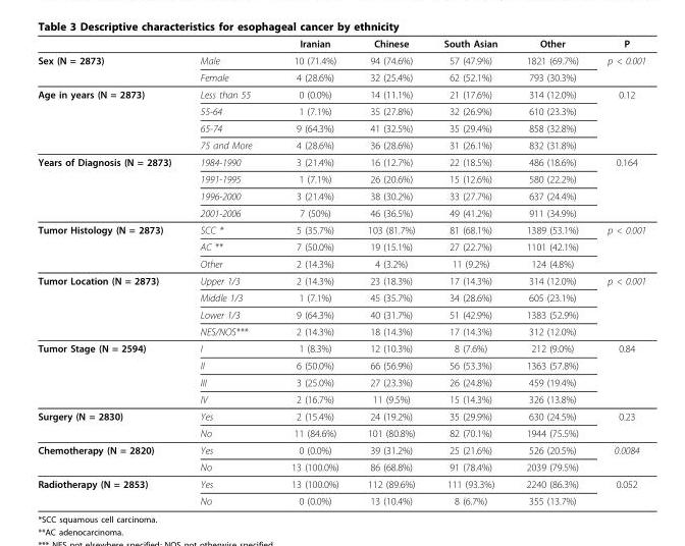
<table><thead><tr><td></td><td></td><td>Iranian</td><td>Chinese</td><td>South Asian</td><td>Other</td><td>P</td></tr></thead><tbody><tr><td rowspan="2">Sex (N = 2873)</td><td>Male</td><td>10 (71.4%)</td><td>94 (74.6%)</td><td>57 (47.9%)</td><td>1821 (69.7%)</td><td>p &lt; 0.001</td></tr><tr><td>Female</td><td>4 (28.6%)</td><td>32 (25.4%)</td><td>62 (52.1%)</td><td>793 (30.3%)</td><td></td></tr><tr><td rowspan="4">Age in years (N = 2873)</td><td>Less than 55</td><td>0 (0.0%)</td><td>14 (11.1%)</td><td>21 (17.6%)</td><td>314 (12.0%)</td><td>0.12</td></tr><tr><td>55-64</td><td>1 (7.1%)</td><td>35 (27.8%)</td><td>32 (26.9%)</td><td>610 (23.3%)</td><td></td></tr><tr><td>65-74</td><td>9 (64.3%)</td><td>41 (32.5%)</td><td>35 (29.4%)</td><td>858 (32.8%)</td><td></td></tr><tr><td>75 and More</td><td>4 (28.6%)</td><td>36 (28.6%)</td><td>31 (26.1%)</td><td>832 (31.8%)</td><td></td></tr><tr><td rowspan="4">Years of Diagnosis (N = 2873)</td><td>1984-1990</td><td>3 (21.4%)</td><td>16 (12.7%)</td><td>22 (18.5%)</td><td>486 (18.6%)</td><td>0.164</td></tr><tr><td>1991-1995</td><td>1 (7.1%)</td><td>26 (20.6%)</td><td>15 (12.6%)</td><td>580 (22.2%)</td><td></td></tr><tr><td>1996-2000</td><td>3 (21.4%)</td><td>38 (30.2%)</td><td>33 (27.7%)</td><td>637 (24.4%)</td><td></td></tr><tr><td>2001-2006</td><td>7 (50%)</td><td>46 (36.5%)</td><td>49 (41.2%)</td><td>911 (34.9%)</td><td></td></tr><tr><td rowspan="3">Tumor Histology (N = 2873)</td><td>SCC *</td><td>5 (35.7%)</td><td>103 (81.7%)</td><td>81 (68.1%)</td><td>1389 (53.1%)</td><td>p &lt; 0.001</td></tr><tr><td>AC **</td><td>7 (50.0%)</td><td>19 (15.1%)</td><td>27 (22.7%)</td><td>1101 (42.1%)</td><td></td></tr><tr><td>Other</td><td>2 (14.3%)</td><td>4 (3.2%)</td><td>11 (9.2%)</td><td>124 (4.8%)</td><td></td></tr><tr><td rowspan="4">Tumor Location (N = 2873)</td><td>Upper 1/3</td><td>2 (14.3%)</td><td>23 (18.3%)</td><td>17 (14.3%)</td><td>314 (12.0%)</td><td>p &lt; 0.001</td></tr><tr><td>Middle 1/3</td><td>1 (7.1%)</td><td>45 (35.7%)</td><td>34 (28.6%)</td><td>605 (23.1%)</td><td></td></tr><tr><td>Lower 1/3</td><td>9 (64.3%)</td><td>40 (31.7%)</td><td>51 (42.9%)</td><td>1383 (52.9%)</td><td></td></tr><tr><td>NES/NOS***</td><td>2 (14.3%)</td><td>18 (14.3%)</td><td>17 (14.3%)</td><td>312 (12.0%)</td><td></td></tr><tr><td rowspan="4">Tumor Stage (N = 2594)</td><td>I</td><td>1 (8.3%)</td><td>12 (10.3%)</td><td>8 (7.6%)</td><td>212 (9.0%)</td><td>0.84</td></tr><tr><td>II</td><td>6 (50.0%)</td><td>66 (56.9%)</td><td>56 (53.3%)</td><td>1363 (57.8%)</td><td></td></tr><tr><td>III</td><td>3 (25.0%)</td><td>27 (23.3%)</td><td>26 (24.8%)</td><td>459 (19.4%)</td><td></td></tr><tr><td>IV</td><td>2 (16.7%)</td><td>11 (9.5%)</td><td>15 (14.3%)</td><td>326 (13.8%)</td><td></td></tr><tr><td rowspan="2">Surgery (N = 2830)</td><td>Yes</td><td>2 (15.4%)</td><td>24 (19.2%)</td><td>35 (29.9%)</td><td>630 (24.5%)</td><td>0.23</td></tr><tr><td>No</td><td>11 (84.6%)</td><td>101 (80.8%)</td><td>82 (70.1%)</td><td>1944 (75.5%)</td><td></td></tr><tr><td rowspan="2">Chemotherapy (N = 2820)</td><td>Yes</td><td>0 (0.0%)</td><td>39 (31.2%)</td><td>25 (21.6%)</td><td>526 (20.5%)</td><td>0.0084</td></tr><tr><td>No</td><td>13 (100.0%)</td><td>86 (68.8%)</td><td>91 (78.4%)</td><td>2039 (79.5%)</td><td></td></tr><tr><td rowspan="2">Radiotherapy (N = 2853)</td><td>Yes</td><td>13 (100.0%)</td><td>112 (89.6%)</td><td>111 (93.3%)</td><td>2240 (86.3%)</td><td>0.052</td></tr><tr><td>No</td><td>0 (0.0%)</td><td>13 (10.4%)</td><td>8 (6.7%)</td><td>355 (13.7%)</td><td></td></tr></tbody></table>